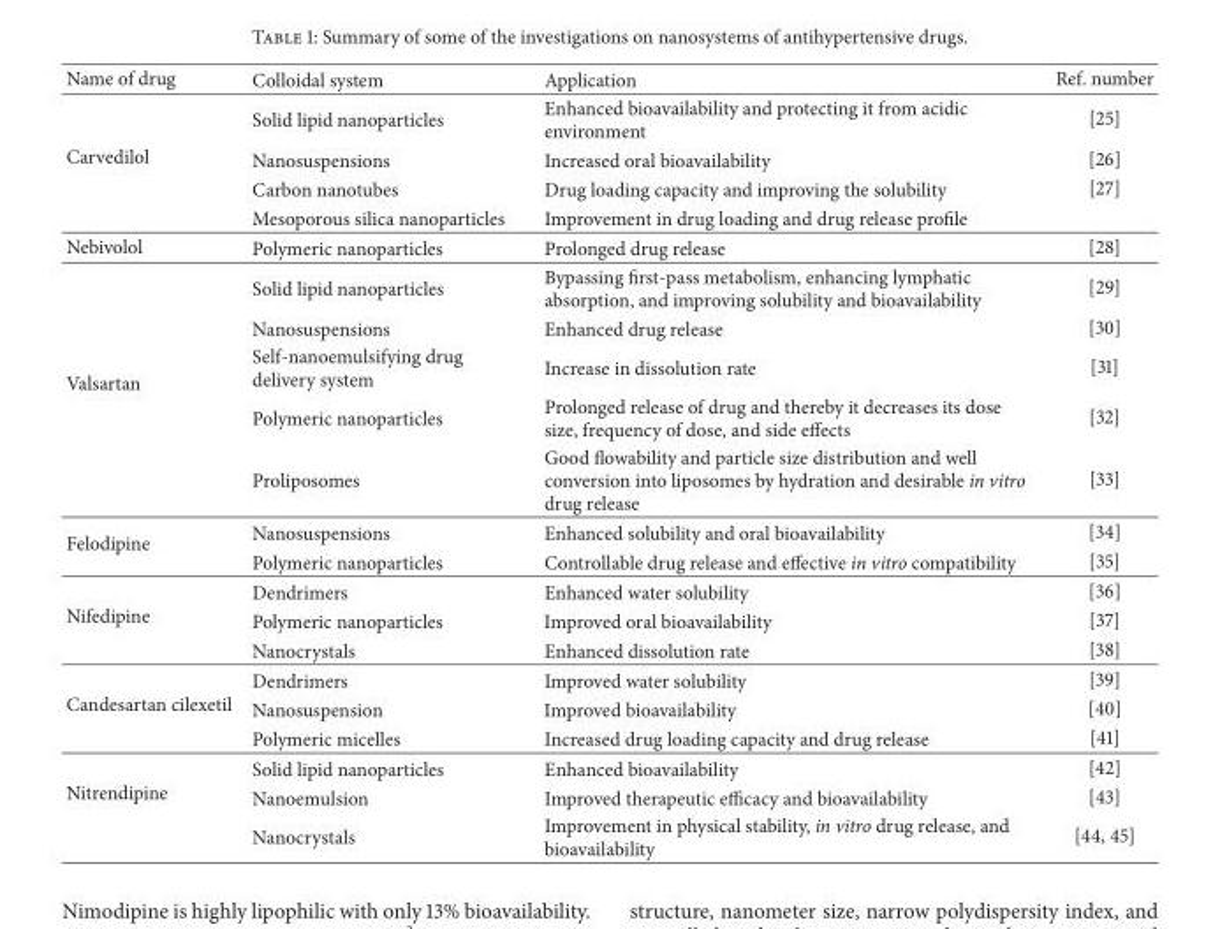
<table><thead><tr><td>Name of drug</td><td>Colloidal system</td><td>Application</td><td>Ref. number</td></tr></thead><tbody><tr><td rowspan="4">Carvedilol</td><td>Solid lipid nanoparticles</td><td>Enhanced bioavailability and protecting it from acidic environment</td><td>[25]</td></tr><tr><td>Nanosuspensions</td><td>Increased oral bioavailability</td><td>[26]</td></tr><tr><td>Carbon nanotubes</td><td>Drug loading capacity and improving the solubility</td><td>[27]</td></tr><tr><td>Mesoporous silica nanoparticles</td><td>Improvement in drug loading and drug release profile</td><td></td></tr><tr><td>Nebivolol</td><td>Polymeric nanoparticles</td><td>Prolonged drug release</td><td>[28]</td></tr><tr><td rowspan="5">Valsartan</td><td>Solid lipid nanoparticles</td><td>Bypassing first-pass metabolism, enhancing lymphatic absorption, and improving solubility and bioavailability</td><td>[29]</td></tr><tr><td>Nanosuspensions</td><td>Enhanced drug release</td><td>[30]</td></tr><tr><td>Self-nanoemulsifying drug delivery system</td><td>Increase in dissolution rate</td><td>[31]</td></tr><tr><td>Polymeric nanoparticles</td><td>Prolonged release of drug and thereby it decreases its dose size, frequency of dose, and side effects</td><td>[32]</td></tr><tr><td>Proliposomes</td><td>Good flowability and particle size distribution and well conversion into liposomes by hydration and desirable in vitro drug release</td><td>[33]</td></tr><tr><td rowspan="2">Felodipine</td><td>Nanosuspensions</td><td>Enhanced solubility and oral bioavailability</td><td>[34]</td></tr><tr><td>Polymeric nanoparticles</td><td>Controllable drug release and effective in vitro compatibility</td><td>[35]</td></tr><tr><td rowspan="3">Nifedipine</td><td>Dendrimers</td><td>Enhanced water solubility</td><td>[36]</td></tr><tr><td>Polymeric nanoparticles</td><td>Improved oral bioavailability</td><td>[37]</td></tr><tr><td>Nanocrystals</td><td>Enhanced dissolution rate</td><td>[38]</td></tr><tr><td rowspan="3">Candesartan cilexetil</td><td>Dendrimers</td><td>Improved water solubility</td><td>[39]</td></tr><tr><td>Nanosuspension</td><td>Improved bioavailability</td><td>[40]</td></tr><tr><td>Polymeric micelles</td><td>Increased drug loading capacity and drug release</td><td>[41]</td></tr><tr><td rowspan="3">Nitrendipine</td><td>Solid lipid nanoparticles</td><td>Enhanced bioavailability</td><td>[42]</td></tr><tr><td>Nanoemulsion</td><td>Improved therapeutic efficacy and bioavailability</td><td>[43]</td></tr><tr><td>Nanocrystals</td><td>Improvement in physical stability, in vitro drug release, and bioavailability</td><td>[44, 45]</td></tr></tbody></table>